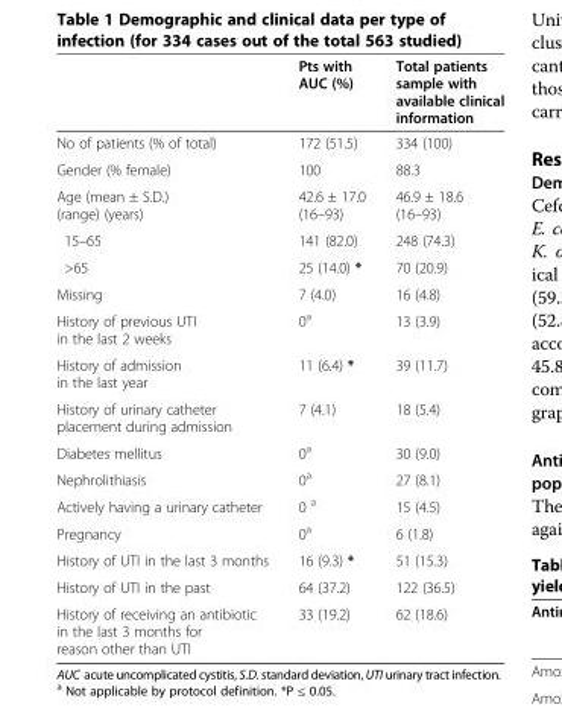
<table><thead><tr><td></td><td>Pts with AUC (%)</td><td>Total patients sample with available clinical information</td></tr></thead><tbody><tr><td>No of patients (% of total)</td><td>172 (51.5)</td><td>334 (100)</td></tr><tr><td>Gender (% female)</td><td>100</td><td>88.3</td></tr><tr><td>Age (mean ± S.D.) (range) (years)</td><td>42.6 ± 17.0 (16–93)</td><td>46.9 ± 18.6 (16–93)</td></tr><tr><td>15–65</td><td>141 (82.0)</td><td>248 (74.3)</td></tr><tr><td>&gt;65</td><td>25 (14.0) *</td><td>70 (20.9)</td></tr><tr><td>Missing</td><td>7 (4.0)</td><td>16 (4.8)</td></tr><tr><td>History of previous UTI in the last 2 weeks</td><td>0<sup>a</sup></td><td>13 (3.9)</td></tr><tr><td>History of admission in the last year</td><td>11 (6.4) *</td><td>39 (11.7)</td></tr><tr><td>History of urinary catheter placement during admission</td><td>7 (4.1)</td><td>18 (5.4)</td></tr><tr><td>Diabetes mellitus</td><td>0<sup>a</sup></td><td>30 (9.0)</td></tr><tr><td>Nephrolithiasis</td><td>0<sup>a</sup></td><td>27 (8.1)</td></tr><tr><td>Actively having a urinary catheter</td><td>0 <sup>a</sup></td><td>15 (4.5)</td></tr><tr><td>Pregnancy</td><td>0<sup>a</sup></td><td>6 (1.8)</td></tr><tr><td>History of UTI in the last 3 months</td><td>16 (9.3) *</td><td>51 (15.3)</td></tr><tr><td>History of UTI in the past</td><td>64 (37.2)</td><td>122 (36.5)</td></tr><tr><td>History of receiving an antibiotic in the last 3 months for reason other than UTI</td><td>33 (19.2)</td><td>62 (18.6)</td></tr></tbody></table>